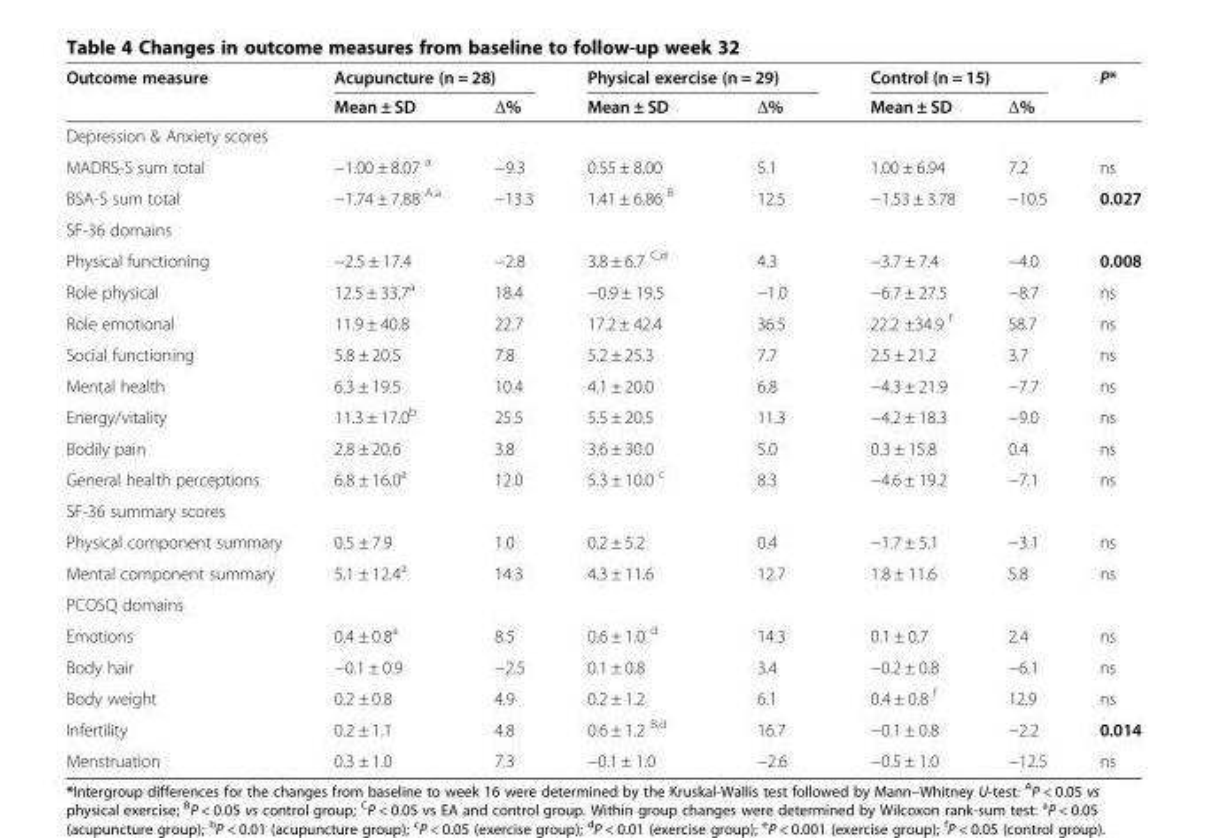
<table><thead><tr><td rowspan="2">Outcome measure</td><td colspan="2">Acupuncture (n = 28)</td><td colspan="2">Physical exercise (n = 29)</td><td colspan="2">Control (n = 15)</td><td rowspan="2">P*</td></tr><tr><td>Mean ± SD</td><td>Δ%</td><td>Mean ± SD</td><td>Δ%</td><td>Mean ± SD</td><td>Δ%</td></tr></thead><tbody><tr><td colspan="8">Depression &amp; Anxiety scores</td></tr><tr><td>MADRS-S sum total</td><td>−1.00 ± 8.07 <sup>a</sup></td><td>−9.3</td><td>0.55 ± 8.00</td><td>5.1</td><td>1.00 ± 6.94</td><td>7.2</td><td>ns</td></tr><tr><td>BSA-S sum total</td><td>−1.74 ± 7.88 <sup>A,a</sup></td><td>−13.3</td><td>1.41 ± 6.86 <sup>B</sup></td><td>12.5</td><td>−1.53 ± 3.78</td><td>−10.5</td><td>0.027</td></tr><tr><td colspan="8">SF-36 domains</td></tr><tr><td>Physical functioning</td><td>−2.5 ± 17.4</td><td>−2.8</td><td>3.8 ± 6.7 <sup>C,d</sup></td><td>4.3</td><td>−3.7 ± 7.4</td><td>−4.0</td><td>0.008</td></tr><tr><td>Role physical</td><td>12.5 ± 33.7<sup>a</sup></td><td>18.4</td><td>−0.9 ± 19.5</td><td>−1.0</td><td>−6.7 ± 27.5</td><td>−8.7</td><td>ns</td></tr><tr><td>Role emotional</td><td>11.9 ± 40.8</td><td>22.7</td><td>17.2 ± 42.4</td><td>36.5</td><td>22.2 ±34.9 <sup>f</sup></td><td>58.7</td><td>ns</td></tr><tr><td>Social functioning</td><td>5.8 ± 20.5</td><td>7.8</td><td>5.2 ± 25.3</td><td>7.7</td><td>2.5 ± 21.2</td><td>3.7</td><td>ns</td></tr><tr><td>Mental health</td><td>6.3 ± 19.5</td><td>10.4</td><td>4.1 ± 20.0</td><td>6.8</td><td>−4.3 ± 21.9</td><td>−7.7</td><td>ns</td></tr><tr><td>Energy/vitality</td><td>11.3 ± 17.0<sup>b</sup></td><td>25.5</td><td>5.5 ± 20.5</td><td>11.3</td><td>−4.2 ± 18.3</td><td>−9.0</td><td>ns</td></tr><tr><td>Bodily pain</td><td>2.8 ± 20.6</td><td>3.8</td><td>3.6 ± 30.0</td><td>5.0</td><td>0.3 ± 15.8</td><td>0.4</td><td>ns</td></tr><tr><td>General health perceptions</td><td>6.8 ± 16.0<sup>a</sup></td><td>12.0</td><td>5.3 ± 10.0 <sup>c</sup></td><td>8.3</td><td>−4.6 ± 19.2</td><td>−7.1</td><td>ns</td></tr><tr><td colspan="8">SF-36 summary scores</td></tr><tr><td>Physical component summary</td><td>0.5 ± 7.9</td><td>1.0</td><td>0.2 ± 5.2</td><td>0.4</td><td>−1.7 ± 5.1</td><td>−3.1</td><td>ns</td></tr><tr><td>Mental component summary</td><td>5.1 ± 12.4<sup>a</sup></td><td>14.3</td><td>4.3 ± 11.6</td><td>12.7</td><td>1.8 ± 11.6</td><td>5.8</td><td>ns</td></tr><tr><td colspan="8">PCOSQ domains</td></tr><tr><td>Emotions</td><td>0.4 ± 0.8<sup>a</sup></td><td>8.5</td><td>0.6 ± 1.0 <sup>d</sup></td><td>14.3</td><td>0.1 ± 0.7</td><td>2.4</td><td>ns</td></tr><tr><td>Body hair</td><td>−0.1 ± 0.9</td><td>−2.5</td><td>0.1 ± 0.8</td><td>3.4</td><td>−0.2 ± 0.8</td><td>−6.1</td><td>ns</td></tr><tr><td>Body weight</td><td>0.2 ± 0.8</td><td>4.9</td><td>0.2 ± 1.2</td><td>6.1</td><td>0.4 ± 0.8 <sup>f</sup></td><td>12.9</td><td>ns</td></tr><tr><td>Infertility</td><td>0.2 ± 1.1</td><td>4.8</td><td>0.6 ± 1.2 <sup>B,d</sup></td><td>16.7</td><td>−0.1 ± 0.8</td><td>−2.2</td><td>0.014</td></tr><tr><td>Menstruation</td><td>0.3 ± 1.0</td><td>7.3</td><td>−0.1 ± 1.0</td><td>−2.6</td><td>−0.5 ± 1.0</td><td>−12.5</td><td>ns</td></tr></tbody></table>